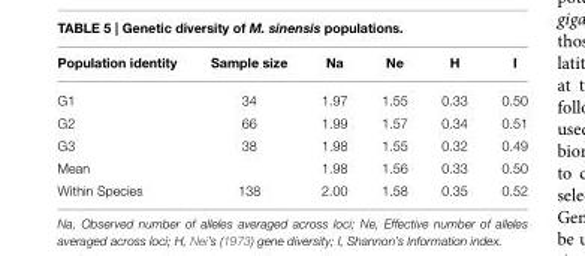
<table><thead><tr><td>Population identity</td><td>Sample size</td><td>Na</td><td>Ne</td><td>H</td><td>I</td></tr></thead><tbody><tr><td>G1</td><td>34</td><td>1.97</td><td>1.55</td><td>0.33</td><td>0.50</td></tr><tr><td>G2</td><td>66</td><td>1.99</td><td>1.57</td><td>0.34</td><td>0.51</td></tr><tr><td>G3</td><td>38</td><td>1.98</td><td>1.55</td><td>0.32</td><td>0.49</td></tr><tr><td>Mean</td><td></td><td>1.98</td><td>1.56</td><td>0.33</td><td>0.50</td></tr><tr><td>Within Species</td><td>138</td><td>2.00</td><td>1.58</td><td>0.35</td><td>0.52</td></tr></tbody></table>